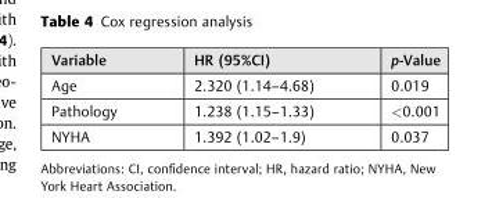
<table><thead><tr><td>Variable</td><td>HR (95%CI)</td><td>p-Value</td></tr></thead><tbody><tr><td>Age</td><td>2.320 (1.14–4.68)</td><td>0.019</td></tr><tr><td>Pathology</td><td>1.238 (1.15–1.33)</td><td>&lt;0.001</td></tr><tr><td>NYHA</td><td>1.392 (1.02–1.9)</td><td>0.037</td></tr></tbody></table>